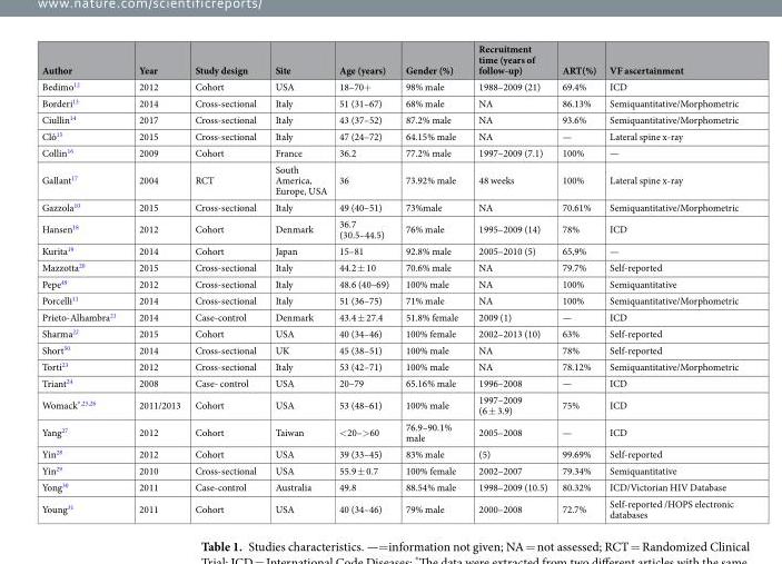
<table><thead><tr><td>Author</td><td>Year</td><td>Study design</td><td>Site</td><td>Age (years)</td><td>Gender (%)</td><td>Recruitment time (years of follow-up)</td><td>ART(%)</td><td>VF ascertainment</td></tr></thead><tbody><tr><td>Bedimo<sup>12</sup></td><td>2012</td><td>Cohort</td><td>USA</td><td>18–70+</td><td>98% male</td><td>1988–2009 (21)</td><td>69.4%</td><td>ICD</td></tr><tr><td>Borderi<sup>13</sup></td><td>2014</td><td>Cross-sectional</td><td>Italy</td><td>51 (31–67)</td><td>68% male</td><td>NA</td><td>86.13%</td><td>Semiquantitative/Morphometric</td></tr><tr><td>Ciullin<sup>14</sup></td><td>2017</td><td>Cross-sectional</td><td>Italy</td><td>43 (37–52)</td><td>87.2% male</td><td>NA</td><td>93.6%</td><td>Semiquantitative/Morphometric</td></tr><tr><td>Clò<sup>15</sup></td><td>2015</td><td>Cross-sectional</td><td>Italy</td><td>47 (24–72)</td><td>64.15% male</td><td>NA</td><td>—</td><td>Lateral spine x-ray</td></tr><tr><td>Collin<sup>16</sup></td><td>2009</td><td>Cohort</td><td>France</td><td>36.2</td><td>77.2% male</td><td>1997–2009 (7.1)</td><td>100%</td><td>—</td></tr><tr><td>Gallant<sup>17</sup></td><td>2004</td><td>RCT</td><td>South America, Europe, USA</td><td>36</td><td>73.92% male</td><td>48 weeks</td><td>100%</td><td>Lateral spine x-ray</td></tr><tr><td>Gazzola<sup>10</sup></td><td>2015</td><td>Cross-sectional</td><td>Italy</td><td>49 (40–51)</td><td>73%male</td><td>NA</td><td>70.61%</td><td>Semiquantitative/Morphometric</td></tr><tr><td>Hansen<sup>18</sup></td><td>2012</td><td>Cohort</td><td>Denmark</td><td>36.7 (30.5–44.5)</td><td>76% male</td><td>1995–2009 (14)</td><td>78%</td><td>ICD</td></tr><tr><td>Kurita<sup>19</sup></td><td>2014</td><td>Cohort</td><td>Japan</td><td>15–81</td><td>92.8% male</td><td>2005–2010 (5)</td><td>65,9%</td><td>—</td></tr><tr><td>Mazzotta<sup>20</sup></td><td>2015</td><td>Cross-sectional</td><td>Italy</td><td>44.2 ± 10</td><td>70.6% male</td><td>NA</td><td>79.7%</td><td>Self-reported</td></tr><tr><td>Pepe<sup>49</sup></td><td>2012</td><td>Cross-sectional</td><td>Italy</td><td>48.6 (40–69)</td><td>100% male</td><td>NA</td><td>100%</td><td>Semiquantitative</td></tr><tr><td>Porcelli<sup>11</sup></td><td>2014</td><td>Cross-sectional</td><td>Italy</td><td>51 (36–75)</td><td>71% male</td><td>NA</td><td>100%</td><td>Semiquantitative/Morphometric</td></tr><tr><td>Prieto-Alhambra<sup>21</sup></td><td>2014</td><td>Case-control</td><td>Denmark</td><td>43.4 ± 27.4</td><td>51.8% female</td><td>2009 (1)</td><td>—</td><td>ICD</td></tr><tr><td>Sharma<sup>22</sup></td><td>2015</td><td>Cohort</td><td>USA</td><td>40 (34–46)</td><td>100% female</td><td>2002–2013 (10)</td><td>63%</td><td>Self-reported</td></tr><tr><td>Short<sup>50</sup></td><td>2014</td><td>Cross-sectional</td><td>UK</td><td>45 (38–51)</td><td>100% male</td><td>NA</td><td>78%</td><td>Self-reported</td></tr><tr><td>Torti<sup>23</sup></td><td>2012</td><td>Cross-sectional</td><td>Italy</td><td>53 (42–71)</td><td>100% male</td><td>NA</td><td>78.12%</td><td>Semiquantitative/Morphometric</td></tr><tr><td>Triant<sup>24</sup></td><td>2008</td><td>Case- control</td><td>USA</td><td>20–79</td><td>65.16% male</td><td>1996–2008</td><td>—</td><td>ICD</td></tr><tr><td>Womack<sup>*,25,26</sup></td><td>2011/2013</td><td>Cohort</td><td>USA</td><td>53 (48–61)</td><td>100% male</td><td>1997–2009 (6 ± 3.9)</td><td>75%</td><td>ICD</td></tr><tr><td>Yang<sup>27</sup></td><td>2012</td><td>Cohort</td><td>Taiwan</td><td>&lt;20–&gt;60</td><td>76.9–90.1% male</td><td>2005–2008</td><td>—</td><td>ICD</td></tr><tr><td>Yin<sup>28</sup></td><td>2012</td><td>Cohort</td><td>USA</td><td>39 (33–45)</td><td>83% male</td><td>(5)</td><td>99.69%</td><td>Self-reported</td></tr><tr><td>Yin<sup>29</sup></td><td>2010</td><td>Cross-sectional</td><td>USA</td><td>55.9 ± 0.7</td><td>100% female</td><td>2002–2007</td><td>79.34%</td><td>Semiquantitative</td></tr><tr><td>Yong<sup>30</sup></td><td>2011</td><td>Case-control</td><td>Australia</td><td>49.8</td><td>88.54% male</td><td>1998–2009 (10.5)</td><td>80.32%</td><td>ICD/Victorian HIV Database</td></tr><tr><td>Young<sup>31</sup></td><td>2011</td><td>Cohort</td><td>USA</td><td>40 (34–46)</td><td>79% male</td><td>2000–2008</td><td>72.7%</td><td>Self-reported /HOPS electronic databases</td></tr></tbody></table>